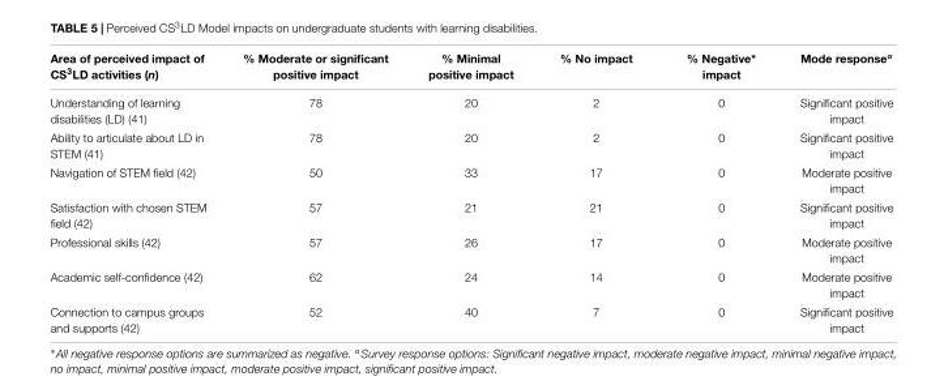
<table><thead><tr><td>Area of perceived impact of CS<sup>3</sup>LD activities (n)</td><td>% Moderate or significant positive impact</td><td>% Minimal positive impact</td><td>% No impact</td><td>% Negative∗ impact</td><td>Mode response<sup>α</sup></td></tr></thead><tbody><tr><td>Understanding of learning disabilities (LD) (41)</td><td>78</td><td>20</td><td>2</td><td>0</td><td>Significant positive impact</td></tr><tr><td>Ability to articulate about LD in STEM (41)</td><td>78</td><td>20</td><td>2</td><td>0</td><td>Significant positive impact</td></tr><tr><td>Navigation of STEM field (42)</td><td>50</td><td>33</td><td>17</td><td>0</td><td>Moderate positive impact</td></tr><tr><td>Satisfaction with chosen STEM field (42)</td><td>57</td><td>21</td><td>21</td><td>0</td><td>Significant positive impact</td></tr><tr><td>Professional skills (42)</td><td>57</td><td>26</td><td>17</td><td>0</td><td>Moderate positive impact</td></tr><tr><td>Academic self-confidence (42)</td><td>62</td><td>24</td><td>14</td><td>0</td><td>Moderate positive impact</td></tr><tr><td>Connection to campus groups and supports (42)</td><td>52</td><td>40</td><td>7</td><td>0</td><td>Significant positive impact</td></tr></tbody></table>